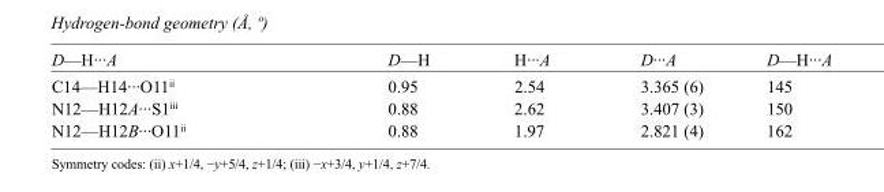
<table><tbody><tr><td>D—H···A</td><td>D—H</td><td>H···A</td><td>D···A</td><td>D—H···A</td></tr><tr><td>C14—H14···O11<sup>ii</sup></td><td>0.95</td><td>2.54</td><td>3.365 (6)</td><td>145</td></tr><tr><td>N12—H12A···S1<sup>iii</sup></td><td>0.88</td><td>2.62</td><td>3.407 (3)</td><td>150</td></tr><tr><td>N12—H12B···O11<sup>ii</sup></td><td>0.88</td><td>1.97</td><td>2.821 (4)</td><td>162</td></tr></tbody></table>